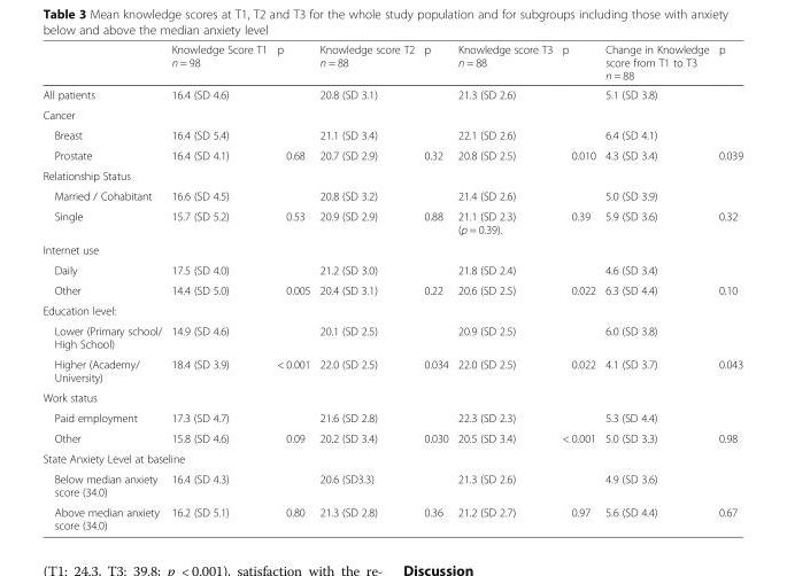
<table><thead><tr><td></td><td>Knowledge Score T1 n = 98</td><td>p</td><td>Knowledge score T2 n = 88</td><td>p</td><td>Knowledge score T3 n = 88</td><td>p</td><td>Change in Knowledge score from T1 to T3 n = 88</td><td>p</td></tr></thead><tbody><tr><td>All patients</td><td>16.4 (SD 4.6)</td><td></td><td>20.8 (SD 3.1)</td><td></td><td>21.3 (SD 2.6)</td><td></td><td>5.1 (SD 3.8)</td><td></td></tr><tr><td colspan="9">Cancer</td></tr><tr><td>Breast</td><td>16.4 (SD 5.4)</td><td></td><td>21.1 (SD 3.4)</td><td></td><td>22.1 (SD 2.6)</td><td></td><td>6.4 (SD 4.1)</td><td></td></tr><tr><td>Prostate</td><td>16.4 (SD 4.1)</td><td>0.68</td><td>20.7 (SD 2.9)</td><td>0.32</td><td>20.8 (SD 2.5)</td><td>0.010</td><td>4.3 (SD 3.4)</td><td>0.039</td></tr><tr><td colspan="9">Relationship Status</td></tr><tr><td>Married / Cohabitant</td><td>16.6 (SD 4.5)</td><td></td><td>20.8 (SD 3.2)</td><td></td><td>21.4 (SD 2.6)</td><td></td><td>5.0 (SD 3.9)</td><td></td></tr><tr><td>Single</td><td>15.7 (SD 5.2)</td><td>0.53</td><td>20.9 (SD 2.9)</td><td>0.88</td><td>21.1 (SD 2.3) (p = 0.39).</td><td>0.39</td><td>5.9 (SD 3.6)</td><td>0.32</td></tr><tr><td colspan="9">Internet use</td></tr><tr><td>Daily</td><td>17.5 (SD 4.0)</td><td></td><td>21.2 (SD 3.0)</td><td></td><td>21.8 (SD 2.4)</td><td></td><td>4.6 (SD 3.4)</td><td></td></tr><tr><td>Other</td><td>14.4 (SD 5.0)</td><td>0.005</td><td>20.4 (SD 3.1)</td><td>0.22</td><td>20.6 (SD 2.5)</td><td>0.022</td><td>6.3 (SD 4.4)</td><td>0.10</td></tr><tr><td colspan="9">Education level:</td></tr><tr><td>Lower (Primary school/ High School)</td><td>14.9 (SD 4.6)</td><td></td><td>20.1 (SD 2.5)</td><td></td><td>20.9 (SD 2.5)</td><td></td><td>6.0 (SD 3.8)</td><td></td></tr><tr><td>Higher (Academy/ University)</td><td>18.4 (SD 3.9)</td><td>&lt; 0.001</td><td>22.0 (SD 2.5)</td><td>0.034</td><td>22.0 (SD 2.5)</td><td>0.022</td><td>4.1 (SD 3.7)</td><td>0.043</td></tr><tr><td colspan="9">Work status</td></tr><tr><td>Paid employment</td><td>17.3 (SD 4.7)</td><td></td><td>21.6 (SD 2.8)</td><td></td><td>22.3 (SD 2.3)</td><td></td><td>5.3 (SD 4.4)</td><td></td></tr><tr><td>Other</td><td>15.8 (SD 4.6)</td><td>0.09</td><td>20.2 (SD 3.4)</td><td>0.030</td><td>20.5 (SD 3.4)</td><td>&lt; 0.001</td><td>5.0 (SD 3.3)</td><td>0.98</td></tr><tr><td colspan="9">State Anxiety Level at baseline</td></tr><tr><td>Below median anxiety score (34.0)</td><td>16.4 (SD 4.3)</td><td></td><td>20.6 (SD3.3)</td><td></td><td>21.3 (SD 2.6)</td><td></td><td>4.9 (SD 3.6)</td><td></td></tr><tr><td>Above median anxiety score (34.0)</td><td>16.2 (SD 5.1)</td><td>0.80</td><td>21.3 (SD 2.8)</td><td>0.36</td><td>21.2 (SD 2.7)</td><td>0.97</td><td>5.6 (SD 4.4)</td><td>0.67</td></tr></tbody></table>